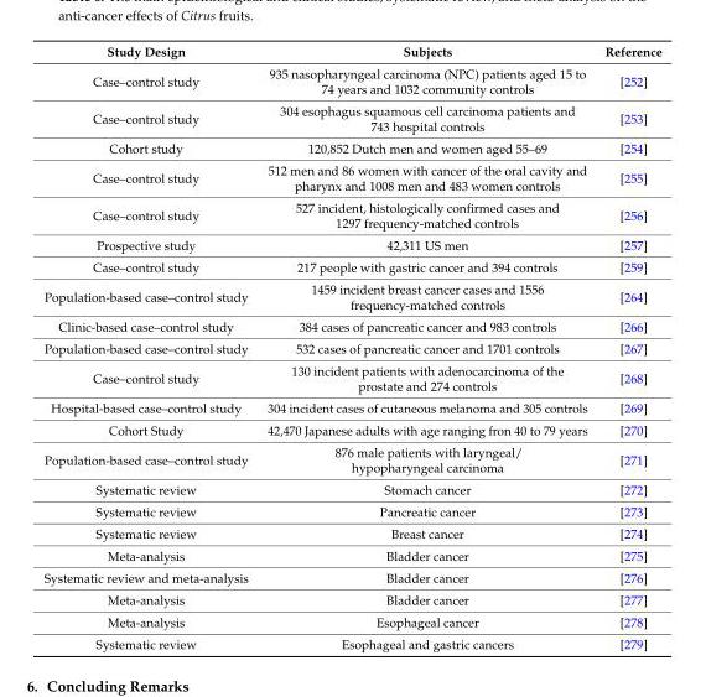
<table><thead><tr><td>Study Design</td><td>Subjects</td><td>Reference</td></tr></thead><tbody><tr><td>Case–control study</td><td>935 nasopharyngeal carcinoma (NPC) patients aged 15 to 74 years and 1032 community controls</td><td>[252]</td></tr><tr><td>Case–control study</td><td>304 esophagus squamous cell carcinoma patients and 743 hospital controls</td><td>[253]</td></tr><tr><td>Cohort study</td><td>120,852 Dutch men and women aged 55–69</td><td>[254]</td></tr><tr><td>Case–control study</td><td>512 men and 86 women with cancer of the oral cavity and pharynx and 1008 men and 483 women controls</td><td>[255]</td></tr><tr><td>Case–control study</td><td>527 incident, histologically confirmed cases and 1297 frequency-matched controls</td><td>[256]</td></tr><tr><td>Prospective study</td><td>42,311 US men</td><td>[257]</td></tr><tr><td>Case–control study</td><td>217 people with gastric cancer and 394 controls</td><td>[259]</td></tr><tr><td>Population-based case–control study</td><td>1459 incident breast cancer cases and 1556 frequency-matched controls</td><td>[264]</td></tr><tr><td>Clinic-based case–control study</td><td>384 cases of pancreatic cancer and 983 controls</td><td>[266]</td></tr><tr><td>Population-based case–control study</td><td>532 cases of pancreatic cancer and 1701 controls</td><td>[267]</td></tr><tr><td>Case–control study</td><td>130 incident patients with adenocarcinoma of the prostate and 274 controls</td><td>[268]</td></tr><tr><td>Hospital-based case–control study</td><td>304 incident cases of cutaneous melanoma and 305 controls</td><td>[269]</td></tr><tr><td>Cohort Study</td><td>42,470 Japanese adults with age ranging fron 40 to 79 years</td><td>[270]</td></tr><tr><td>Population-based case–control study</td><td>876 male patients with laryngeal/ hypopharyngeal carcinoma</td><td>[271]</td></tr><tr><td>Systematic review</td><td>Stomach cancer</td><td>[272]</td></tr><tr><td>Systematic review</td><td>Pancreatic cancer</td><td>[273]</td></tr><tr><td>Systematic review</td><td>Breast cancer</td><td>[274]</td></tr><tr><td>Meta-analysis</td><td>Bladder cancer</td><td>[275]</td></tr><tr><td>Systematic review and meta-analysis</td><td>Bladder cancer</td><td>[276]</td></tr><tr><td>Meta-analysis</td><td>Bladder cancer</td><td>[277]</td></tr><tr><td>Meta-analysis</td><td>Esophageal cancer</td><td>[278]</td></tr><tr><td>Systematic review</td><td>Esophageal and gastric cancers</td><td>[279]</td></tr></tbody></table>